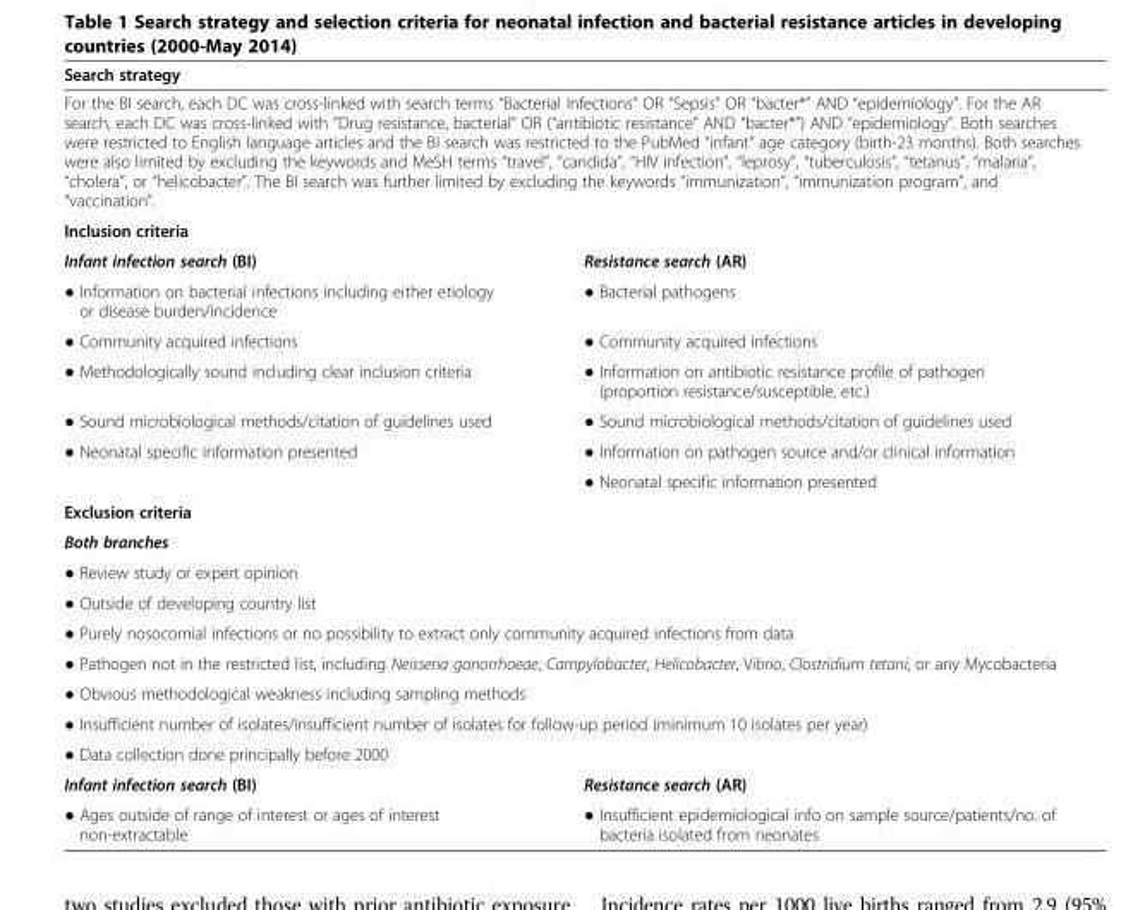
<table><thead><tr><td rowspan="3" colspan="2">Search strategy For the BI search, each DC was cross-linked with search terms “Bacterial Infections” OR “Sepsis” OR “bacter*” AND “epidemiology”. For the AR search, each DC was cross-linked with “Drug resistance, bacterial” OR (“antibiotic resistance” AND “bacter*”) AND “epidemiology”. Both searches were restricted to English language articles and the BI search was restricted to the PubMed “infant” age category (birth-23 months). Both searches were also limited by excluding the keywords and MeSH terms “travel”, “candida”, “HIV infection”, “leprosy”, “tuberculosis”, “tetanus”, “malaria”, “cholera”, or “helicobacter”. The BI search was further limited by excluding the keywords “immunization”, “immunization program”, and “vaccination”. Inclusion criteria</td></tr><tr></tr><tr></tr><tr><td>Infant infection search (BI)</td><td>Resistance search (AR)</td></tr></thead><tbody><tr><td>● Information on bacterial infections including either etiology or disease burden/incidence</td><td>● Bacterial pathogens</td></tr><tr><td>● Community acquired infections</td><td>● Community acquired infections</td></tr><tr><td>● Methodologically sound including clear inclusion criteria</td><td>● Information on antibiotic resistance profile of pathogen (proportion resistance/susceptible, etc.)</td></tr><tr><td>● Sound microbiological methods/citation of guidelines used</td><td>● Sound microbiological methods/citation of guidelines used</td></tr><tr><td rowspan="2">● Neonatal specific information presented</td><td>● Information on pathogen source and/or clinical information</td></tr><tr><td>● Neonatal specific information presented</td></tr><tr><td colspan="2">Exclusion criteria</td></tr><tr><td colspan="2">Both branches</td></tr><tr><td colspan="2">● Review study or expert opinion</td></tr><tr><td colspan="2">● Outside of developing country list</td></tr><tr><td colspan="2">● Purely nosocomial infections or no possibility to extract only community acquired infections from data</td></tr><tr><td colspan="2">● Pathogen not in the restricted list, including Neisseria gonorrhoeae, Campylobacter, Helicobacter, Vibrio, Clostridium tetani, or any Mycobacteria</td></tr><tr><td colspan="2">● Obvious methodological weakness including sampling methods</td></tr><tr><td colspan="2">● Insufficient number of isolates/insufficient number of isolates for follow-up period (minimum 10 isolates per year)</td></tr><tr><td colspan="2">● Data collection done principally before 2000</td></tr><tr><td>Infant infection search (BI)</td><td>Resistance search (AR)</td></tr><tr><td>● Ages outside of range of interest or ages of interest non-extractable</td><td>● Insufficient epidemiological info on sample source/patients/no. of bacteria isolated from neonates</td></tr></tbody></table>